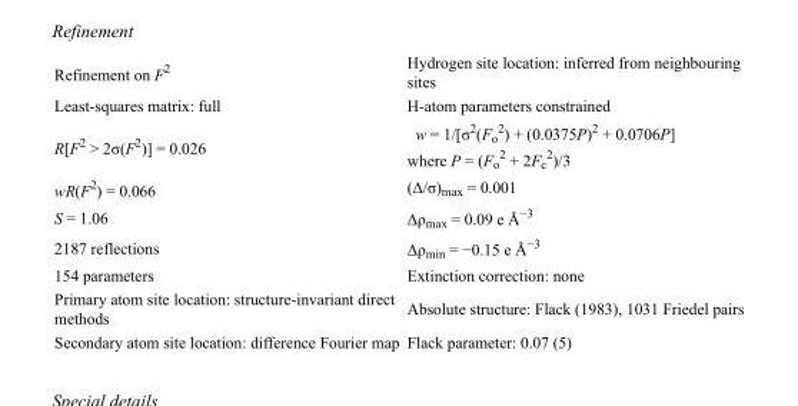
<table><tbody><tr><td>Refinement on F<sup>2</sup></td><td>Hydrogen site location: inferred from neighbouring sites</td></tr><tr><td>Least-squares matrix: full</td><td>H-atom parameters constrained</td></tr><tr><td>R[F<sup>2</sup> &gt; 2σ(F<sup>2</sup>)] = 0.026</td><td>w = 1/[σ<sup>2</sup>(F<sub>o</sub> <sup>2</sup>) + (0.0375P)<sup>2</sup> + 0.0706P] where P = (F<sub>o</sub> <sup>2</sup> + 2F<sub>c</sub> <sup>2</sup>)/3</td></tr><tr><td>wR(F<sup>2</sup>) = 0.066</td><td>(Δ/σ)<sub>max</sub> = 0.001</td></tr><tr><td>S = 1.06</td><td>Δρ<sub>max</sub> = 0.09 e Å<sup>−3</sup></td></tr><tr><td>2187 reflections</td><td>Δρ<sub>min</sub> = −0.15 e Å<sup>−3</sup></td></tr><tr><td>154 parameters</td><td>Extinction correction: none</td></tr><tr><td>Primary atom site location: structure-invariant direct methods</td><td>Absolute structure: Flack (1983), 1031 Friedel pairs</td></tr><tr><td>Secondary atom site location: difference Fourier map</td><td>Flack parameter: 0.07 (5)</td></tr></tbody></table>